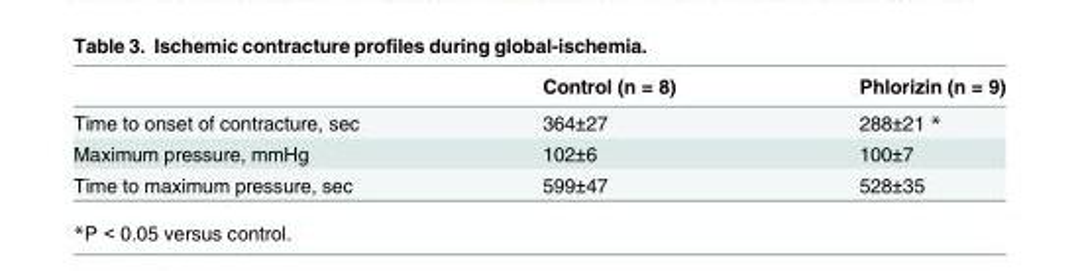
<table><thead><tr><td></td><td>Control (n = 8)</td><td>Phlorizin (n = 9)</td></tr></thead><tbody><tr><td>Time to onset of contracture, sec</td><td>364±27</td><td>288±21 *</td></tr><tr><td>Maximum pressure, mmHg</td><td>102±6</td><td>100±7</td></tr><tr><td>Time to maximum pressure, sec</td><td>599±47</td><td>528±35</td></tr></tbody></table>